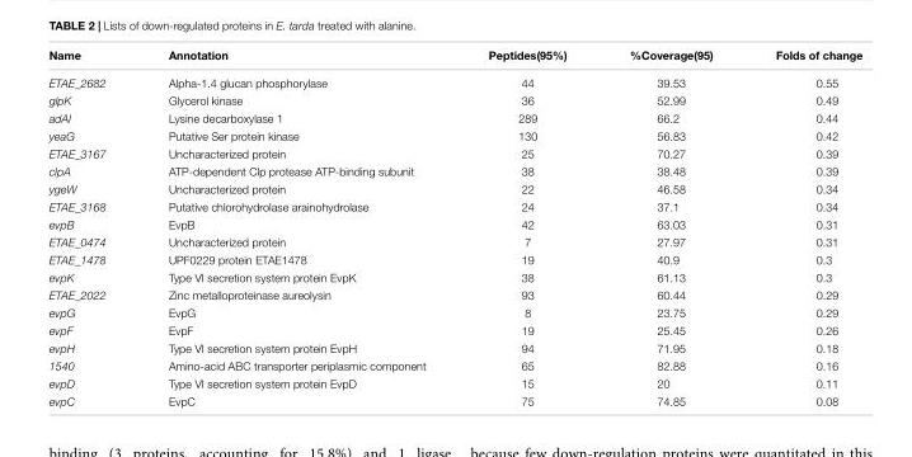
<table><thead><tr><td>Name</td><td>Annotation</td><td>Peptides(95%)</td><td>%Coverage(95)</td><td>Folds of change</td></tr></thead><tbody><tr><td>ETAE_2682</td><td>Alpha-1.4 glucan phosphorylase</td><td>44</td><td>39.53</td><td>0.55</td></tr><tr><td>glpK</td><td>Glycerol kinase</td><td>36</td><td>52.99</td><td>0.49</td></tr><tr><td>adAl</td><td>Lysine decarboxylase 1</td><td>289</td><td>66.2</td><td>0.44</td></tr><tr><td>yeaG</td><td>Putative Ser protein kinase</td><td>130</td><td>56.83</td><td>0.42</td></tr><tr><td>ETAE_3167</td><td>Uncharacterized protein</td><td>25</td><td>70.27</td><td>0.39</td></tr><tr><td>clpA</td><td>ATP-dependent Clp protease ATP-binding subunit</td><td>38</td><td>38.48</td><td>0.39</td></tr><tr><td>ygeW</td><td>Uncharacterized protein</td><td>22</td><td>46.58</td><td>0.34</td></tr><tr><td>ETAE_3168</td><td>Putative chlorohydrolase arainohydrolase</td><td>24</td><td>37.1</td><td>0.34</td></tr><tr><td>evpB</td><td>EvpB</td><td>42</td><td>63.03</td><td>0.31</td></tr><tr><td>ETAE_0474</td><td>Uncharacterized protein</td><td>7</td><td>27.97</td><td>0.31</td></tr><tr><td>ETAE_1478</td><td>UPF0229 protein ETAE1478</td><td>19</td><td>40.9</td><td>0.3</td></tr><tr><td>evpK</td><td>Type VI secretion system protein EvpK</td><td>38</td><td>61.13</td><td>0.3</td></tr><tr><td>ETAE_2022</td><td>Zinc metalloproteinase aureolysin</td><td>93</td><td>60.44</td><td>0.29</td></tr><tr><td>evpG</td><td>EvpG</td><td>8</td><td>23.75</td><td>0.29</td></tr><tr><td>evpF</td><td>EvpF</td><td>19</td><td>25.45</td><td>0.26</td></tr><tr><td>evpH</td><td>Type VI secretion system protein EvpH</td><td>94</td><td>71.95</td><td>0.18</td></tr><tr><td>1540</td><td>Amino-acid ABC transporter periplasmic component</td><td>65</td><td>82.88</td><td>0.16</td></tr><tr><td>evpD</td><td>Type VI secretion system protein EvpD</td><td>15</td><td>20</td><td>0.11</td></tr><tr><td>evpC</td><td>EvpC</td><td>75</td><td>74.85</td><td>0.08</td></tr></tbody></table>